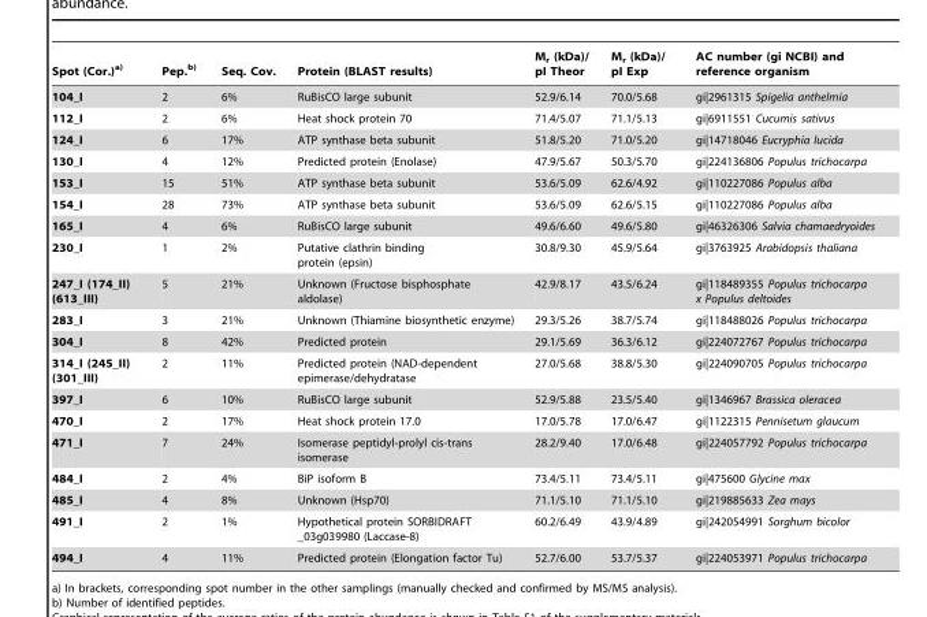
<table><thead><tr><td>Spot (Cor.)<sup>a)</sup></td><td>Pep.<sup>b)</sup></td><td>Seq. Cov.</td><td>Protein (BLAST results)</td><td>M<sub>r</sub> (kDa)/ pI Theor</td><td>M<sub>r</sub> (kDa)/ pI Exp</td><td>AC number (gi NCBI) and reference organism</td></tr></thead><tbody><tr><td>104_I</td><td>2</td><td>6%</td><td>RuBisCO large subunit</td><td>52.9/6.14</td><td>70.0/5.68</td><td>gi|2961315 Spigelia anthelmia</td></tr><tr><td>112_I</td><td>2</td><td>6%</td><td>Heat shock protein 70</td><td>71.4/5.07</td><td>71.1/5.13</td><td>gi|6911551 Cucumis sativus</td></tr><tr><td>124_I</td><td>6</td><td>17%</td><td>ATP synthase beta subunit</td><td>51.8/5.20</td><td>71.0/5.20</td><td>gi|14718046 Eucryphia lucida</td></tr><tr><td>130_I</td><td>4</td><td>12%</td><td>Predicted protein (Enolase)</td><td>47.9/5.67</td><td>50.3/5.70</td><td>gi|224136806 Populus trichocarpa</td></tr><tr><td>153_I</td><td>15</td><td>51%</td><td>ATP synthase beta subunit</td><td>53.6/5.09</td><td>62.6/4.92</td><td>gi|110227086 Populus alba</td></tr><tr><td>154_I</td><td>28</td><td>73%</td><td>ATP synthase beta subunit</td><td>53.6/5.09</td><td>62.6/5.15</td><td>gi|110227086 Populus alba</td></tr><tr><td>165_I</td><td>4</td><td>6%</td><td>RuBisCO large subunit</td><td>49.6/6.60</td><td>49.6/5.80</td><td>gi|46326306 Salvia chamaedryoides</td></tr><tr><td>230_I</td><td>1</td><td>2%</td><td>Putative clathrin binding protein (epsin)</td><td>30.8/9.30</td><td>45.9/5.64</td><td>gi|3763925 Arabidopsis thaliana</td></tr><tr><td>247_I (174_II) (613_III)</td><td>5</td><td>21%</td><td>Unknown (Fructose bisphosphate aldolase)</td><td>42.9/8.17</td><td>43.5/6.24</td><td>gi|118489355 Populus trichocarpa x Populus deltoides</td></tr><tr><td>283_I</td><td>3</td><td>21%</td><td>Unknown (Thiamine biosynthetic enzyme)</td><td>29.3/5.26</td><td>38.7/5.74</td><td>gi|118488026 Populus trichocarpa</td></tr><tr><td>304_I</td><td>8</td><td>42%</td><td>Predicted protein</td><td>29.1/5.69</td><td>36.3/6.12</td><td>gi|224072767 Populus trichocarpa</td></tr><tr><td>314_I (245_II) (301_III)</td><td>2</td><td>11%</td><td>Predicted protein (NAD-dependent epimerase/dehydratase</td><td>27.0/5.68</td><td>38.8/5.30</td><td>gi|224090705 Populus trichocarpa</td></tr><tr><td>397_I</td><td>6</td><td>10%</td><td>RuBisCO large subunit</td><td>52.9/5.88</td><td>23.5/5.40</td><td>gi|1346967 Brassica oleracea</td></tr><tr><td>470_I</td><td>2</td><td>17%</td><td>Heat shock protein 17.0</td><td>17.0/5.78</td><td>17.0/6.47</td><td>gi|1122315 Pennisetum glaucum</td></tr><tr><td>471_I</td><td>7</td><td>24%</td><td>Isomerase peptidyl-prolyl cis-trans isomerase</td><td>28.2/9.40</td><td>17.0/6.48</td><td>gi|224057792 Populus trichocarpa</td></tr><tr><td>484_I</td><td>2</td><td>4%</td><td>BiP isoform B</td><td>73.4/5.11</td><td>73.4/5.11</td><td>gi|475600 Glycine max</td></tr><tr><td>485_I</td><td>4</td><td>8%</td><td>Unknown (Hsp70)</td><td>71.1/5.10</td><td>71.1/5.10</td><td>gi|219885633 Zea mays</td></tr><tr><td>491_I</td><td>2</td><td>1%</td><td>Hypothetical protein SORBIDRAFT _03g039980 (Laccase-8)</td><td>60.2/6.49</td><td>43.9/4.89</td><td>gi|242054991 Sorghum bicolor</td></tr><tr><td>494_I</td><td>4</td><td>11%</td><td>Predicted protein (Elongation factor Tu)</td><td>52.7/6.00</td><td>53.7/5.37</td><td>gi|224053971 Populus trichocarpa</td></tr></tbody></table>